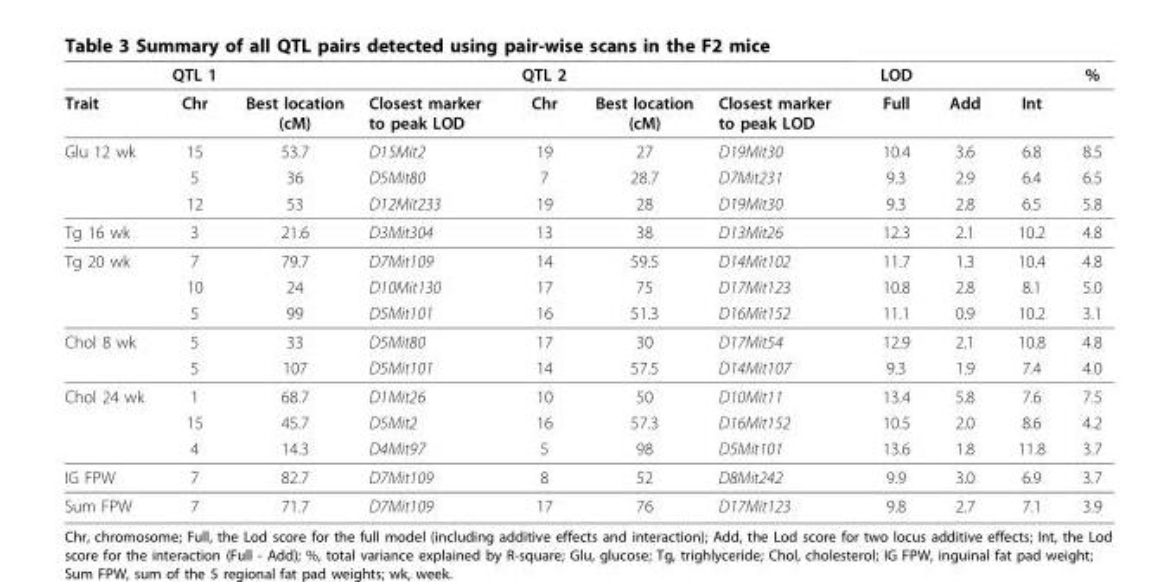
<table><thead><tr><td></td><td>QTL 1</td><td></td><td></td><td>QTL 2</td><td></td><td></td><td>LOD</td><td></td><td></td><td>%</td></tr></thead><tbody><tr><td>Trait</td><td>Chr</td><td>Best location (cM)</td><td>Closest marker to peak LOD</td><td>Chr</td><td>Best location (cM)</td><td>Closest marker to peak LOD</td><td>Full</td><td>Add</td><td>Int</td><td></td></tr><tr><td rowspan="3">Glu 12 wk</td><td>15</td><td>53.7</td><td>D15Mit2</td><td>19</td><td>27</td><td>D19Mit30</td><td>10.4</td><td>3.6</td><td>6.8</td><td>8.5</td></tr><tr><td>5</td><td>36</td><td>D5Mit80</td><td>7</td><td>28.7</td><td>D7Mit231</td><td>9.3</td><td>2.9</td><td>6.4</td><td>6.5</td></tr><tr><td>12</td><td>53</td><td>D12Mit233</td><td>19</td><td>28</td><td>D19Mit30</td><td>9.3</td><td>2.8</td><td>6.5</td><td>5.8</td></tr><tr><td>Tg 16 wk</td><td>3</td><td>21.6</td><td>D3Mit304</td><td>13</td><td>38</td><td>D13Mit26</td><td>12.3</td><td>2.1</td><td>10.2</td><td>4.8</td></tr><tr><td rowspan="3">Tg 20 wk</td><td>7</td><td>79.7</td><td>D7Mit109</td><td>14</td><td>59.5</td><td>D14Mit102</td><td>11.7</td><td>1.3</td><td>10.4</td><td>4.8</td></tr><tr><td>10</td><td>24</td><td>D10Mit130</td><td>17</td><td>75</td><td>D17Mit123</td><td>10.8</td><td>2.8</td><td>8.1</td><td>5.0</td></tr><tr><td>5</td><td>99</td><td>D5Mit101</td><td>16</td><td>51.3</td><td>D16Mit152</td><td>11.1</td><td>0.9</td><td>10.2</td><td>3.1</td></tr><tr><td rowspan="2">Chol 8 wk</td><td>5</td><td>33</td><td>D5Mit80</td><td>17</td><td>30</td><td>D17Mit54</td><td>12.9</td><td>2.1</td><td>10.8</td><td>4.8</td></tr><tr><td>5</td><td>107</td><td>D5Mit101</td><td>14</td><td>57.5</td><td>D14Mit107</td><td>9.3</td><td>1.9</td><td>7.4</td><td>4.0</td></tr><tr><td rowspan="3">Chol 24 wk</td><td>1</td><td>68.7</td><td>D1Mit26</td><td>10</td><td>50</td><td>D10Mit11</td><td>13.4</td><td>5.8</td><td>7.6</td><td>7.5</td></tr><tr><td>15</td><td>45.7</td><td>D5Mit2</td><td>16</td><td>57.3</td><td>D16Mit152</td><td>10.5</td><td>2.0</td><td>8.6</td><td>4.2</td></tr><tr><td>4</td><td>14.3</td><td>D4Mit97</td><td>5</td><td>98</td><td>D5Mit101</td><td>13.6</td><td>1.8</td><td>11.8</td><td>3.7</td></tr><tr><td>IG FPW</td><td>7</td><td>82.7</td><td>D7Mit109</td><td>8</td><td>52</td><td>D8Mit242</td><td>9.9</td><td>3.0</td><td>6.9</td><td>3.7</td></tr><tr><td>Sum FPW</td><td>7</td><td>71.7</td><td>D7Mit109</td><td>17</td><td>76</td><td>D17Mit123</td><td>9.8</td><td>2.7</td><td>7.1</td><td>3.9</td></tr></tbody></table>